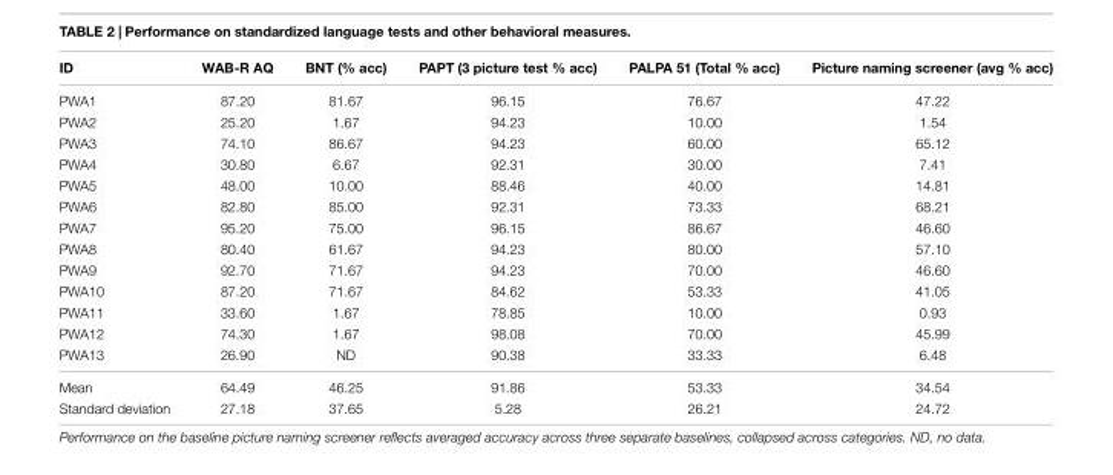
<table><thead><tr><td>ID</td><td>WAB-R AQ</td><td>BNT (% acc)</td><td>PAPT (3 picture test % acc)</td><td>PALPA 51 (Total % acc)</td><td>Picture naming screener (avg % acc)</td></tr></thead><tbody><tr><td>PWA1</td><td>87.20</td><td>81.67</td><td>96.15</td><td>76.67</td><td>47.22</td></tr><tr><td>PWA2</td><td>25.20</td><td>1.67</td><td>94.23</td><td>10.00</td><td>1.54</td></tr><tr><td>PWA3</td><td>74.10</td><td>86.67</td><td>94.23</td><td>60.00</td><td>65.12</td></tr><tr><td>PWA4</td><td>30.80</td><td>6.67</td><td>92.31</td><td>30.00</td><td>7.41</td></tr><tr><td>PWA5</td><td>48.00</td><td>10.00</td><td>88.46</td><td>40.00</td><td>14.81</td></tr><tr><td>PWA6</td><td>82.80</td><td>85.00</td><td>92.31</td><td>73.33</td><td>68.21</td></tr><tr><td>PWA7</td><td>95.20</td><td>75.00</td><td>96.15</td><td>86.67</td><td>46.60</td></tr><tr><td>PWA8</td><td>80.40</td><td>61.67</td><td>94.23</td><td>80.00</td><td>57.10</td></tr><tr><td>PWA9</td><td>92.70</td><td>71.67</td><td>94.23</td><td>70.00</td><td>46.60</td></tr><tr><td>PWA10</td><td>87.20</td><td>71.67</td><td>84.62</td><td>53.33</td><td>41.05</td></tr><tr><td>PWA11</td><td>33.60</td><td>1.67</td><td>78.85</td><td>10.00</td><td>0.93</td></tr><tr><td>PWA12</td><td>74.30</td><td>1.67</td><td>98.08</td><td>70.00</td><td>45.99</td></tr><tr><td>PWA13</td><td>26.90</td><td>ND</td><td>90.38</td><td>33.33</td><td>6.48</td></tr><tr><td>Mean</td><td>64.49</td><td>46.25</td><td>91.86</td><td>53.33</td><td>34.54</td></tr><tr><td>Standard deviation</td><td>27.18</td><td>37.65</td><td>5.28</td><td>26.21</td><td>24.72</td></tr></tbody></table>